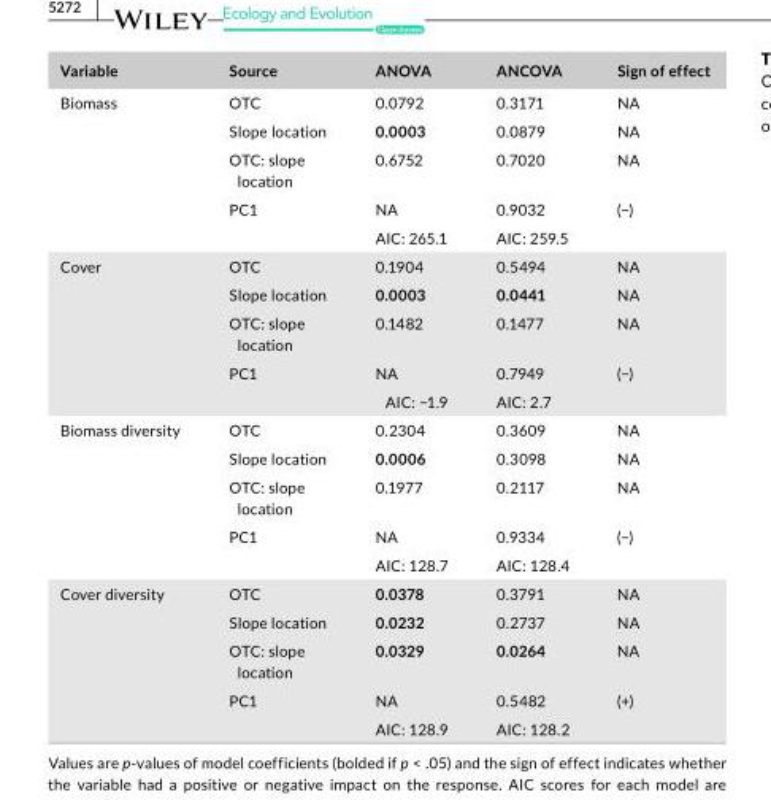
<table><thead><tr><td>Variable</td><td>Source</td><td>ANOVA</td><td>ANCOVA</td><td>Sign of effect</td></tr></thead><tbody><tr><td rowspan="5">Biomass</td><td>OTC</td><td>0.0792</td><td>0.3171</td><td>NA</td></tr><tr><td>Slope location</td><td>0.0003</td><td>0.0879</td><td>NA</td></tr><tr><td>OTC: slope location</td><td>0.6752</td><td>0.7020</td><td>NA</td></tr><tr><td>PC1</td><td>NA</td><td>0.9032</td><td>(−)</td></tr><tr><td></td><td>AIC: 265.1</td><td>AIC: 259.5</td><td></td></tr><tr><td rowspan="5">Cover</td><td>OTC</td><td>0.1904</td><td>0.5494</td><td>NA</td></tr><tr><td>Slope location</td><td>0.0003</td><td>0.0441</td><td>NA</td></tr><tr><td>OTC: slope location</td><td>0.1482</td><td>0.1477</td><td>NA</td></tr><tr><td>PC1</td><td>NA</td><td>0.7949</td><td>(−)</td></tr><tr><td></td><td>AIC: −1.9</td><td>AIC: 2.7</td><td></td></tr><tr><td rowspan="5">Biomass diversity</td><td>OTC</td><td>0.2304</td><td>0.3609</td><td>NA</td></tr><tr><td>Slope location</td><td>0.0006</td><td>0.3098</td><td>NA</td></tr><tr><td>OTC: slope location</td><td>0.1977</td><td>0.2117</td><td>NA</td></tr><tr><td>PC1</td><td>NA</td><td>0.9334</td><td>(−)</td></tr><tr><td></td><td>AIC: 128.7</td><td>AIC: 128.4</td><td></td></tr><tr><td rowspan="5">Cover diversity</td><td>OTC</td><td>0.0378</td><td>0.3791</td><td>NA</td></tr><tr><td>Slope location</td><td>0.0232</td><td>0.2737</td><td>NA</td></tr><tr><td>OTC: slope location</td><td>0.0329</td><td>0.0264</td><td>NA</td></tr><tr><td>PC1</td><td>NA</td><td>0.5482</td><td>(+)</td></tr><tr><td></td><td>AIC: 128.9</td><td>AIC: 128.2</td><td></td></tr></tbody></table>